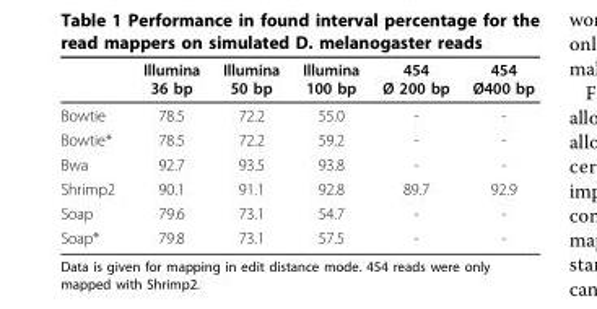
<table><thead><tr><td></td><td>Illumina 36 bp</td><td>Illumina 50 bp</td><td>Illumina 100 bp</td><td>454 Ø 200 bp</td><td>454 Ø400 bp</td></tr></thead><tbody><tr><td>Bowtie</td><td>78.5</td><td>72.2</td><td>55.0</td><td>-</td><td>-</td></tr><tr><td>Bowtie*</td><td>78.5</td><td>72.2</td><td>59.2</td><td>-</td><td>-</td></tr><tr><td>Bwa</td><td>92.7</td><td>93.5</td><td>93.8</td><td>-</td><td>-</td></tr><tr><td>Shrimp2</td><td>90.1</td><td>91.1</td><td>92.8</td><td>89.7</td><td>92.9</td></tr><tr><td>Soap</td><td>79.6</td><td>73.1</td><td>54.7</td><td>-</td><td>-</td></tr><tr><td>Soap*</td><td>79.8</td><td>73.1</td><td>57.5</td><td>-</td><td>-</td></tr></tbody></table>